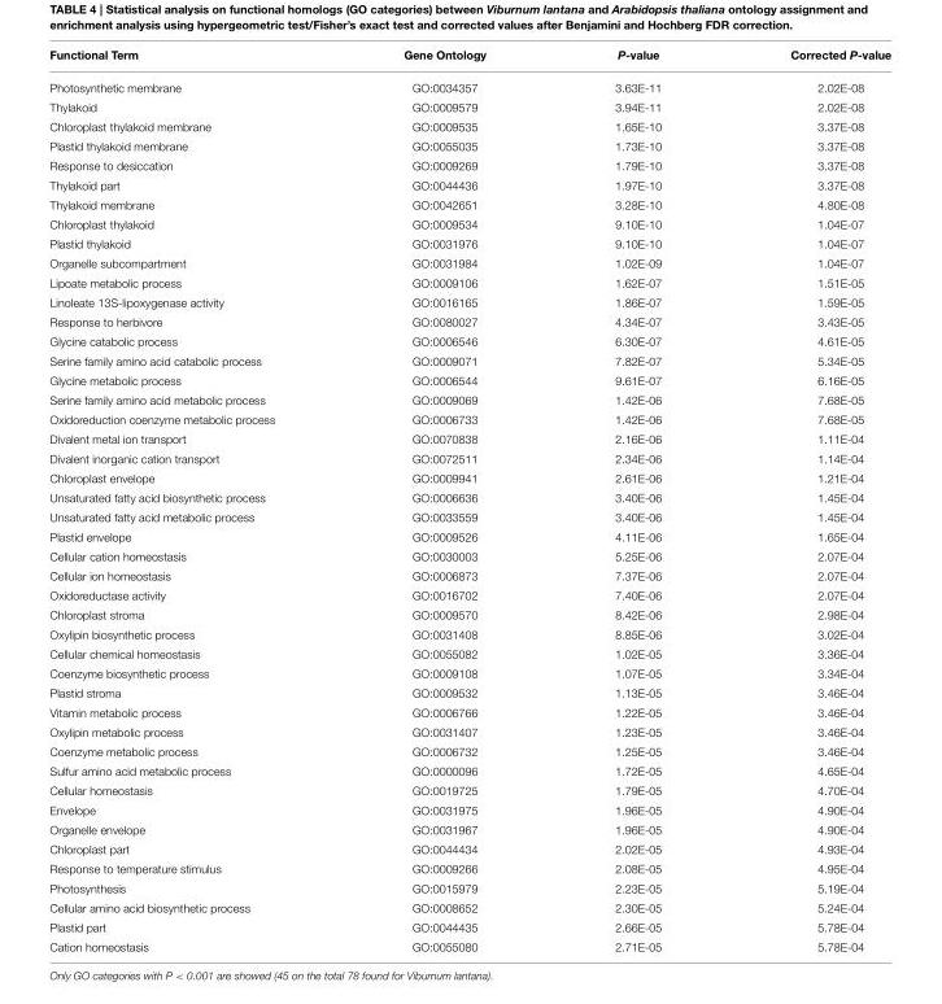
<table><thead><tr><td>Functional Term</td><td>Gene Ontology</td><td>P-value</td><td>Corrected P-value</td></tr></thead><tbody><tr><td>Photosynthetic membrane</td><td>GO:0034357</td><td>3.63E-11</td><td>2.02E-08</td></tr><tr><td>Thylakoid</td><td>GO:0009579</td><td>3.94E-11</td><td>2.02E-08</td></tr><tr><td>Chloroplast thylakoid membrane</td><td>GO:0009535</td><td>1.65E-10</td><td>3.37E-08</td></tr><tr><td>Plastid thylakoid membrane</td><td>GO:0055035</td><td>1.73E-10</td><td>3.37E-08</td></tr><tr><td>Response to desiccation</td><td>GO:0009269</td><td>1.79E-10</td><td>3.37E-08</td></tr><tr><td>Thylakoid part</td><td>GO:0044436</td><td>1.97E-10</td><td>3.37E-08</td></tr><tr><td>Thylakoid membrane</td><td>GO:0042651</td><td>3.28E-10</td><td>4.80E-08</td></tr><tr><td>Chloroplast thylakoid</td><td>GO:0009534</td><td>9.10E-10</td><td>1.04E-07</td></tr><tr><td>Plastid thylakoid</td><td>GO:0031976</td><td>9.10E-10</td><td>1.04E-07</td></tr><tr><td>Organelle subcompartment</td><td>GO:0031984</td><td>1.02E-09</td><td>1.04E-07</td></tr><tr><td>Lipoate metabolic process</td><td>GO:0009106</td><td>1.62E-07</td><td>1.51E-05</td></tr><tr><td>Linoleate 13S-lipoxygenase activity</td><td>GO:0016165</td><td>1.86E-07</td><td>1.59E-05</td></tr><tr><td>Response to herbivore</td><td>GO:0080027</td><td>4.34E-07</td><td>3.43E-05</td></tr><tr><td>Glycine catabolic process</td><td>GO:0006546</td><td>6.30E-07</td><td>4.61E-05</td></tr><tr><td>Serine family amino acid catabolic process</td><td>GO:0009071</td><td>7.82E-07</td><td>5.34E-05</td></tr><tr><td>Glycine metabolic process</td><td>GO:0006544</td><td>9.61E-07</td><td>6.16E-05</td></tr><tr><td>Serine family amino acid metabolic process</td><td>GO:0009069</td><td>1.42E-06</td><td>7.68E-05</td></tr><tr><td>Oxidoreduction coenzyme metabolic process</td><td>GO:0006733</td><td>1.42E-06</td><td>7.68E-05</td></tr><tr><td>Divalent metal ion transport</td><td>GO:0070838</td><td>2.16E-06</td><td>1.11E-04</td></tr><tr><td>Divalent inorganic cation transport</td><td>GO:0072511</td><td>2.34E-06</td><td>1.14E-04</td></tr><tr><td>Chloroplast envelope</td><td>GO:0009941</td><td>2.61E-06</td><td>1.21E-04</td></tr><tr><td>Unsaturated fatty acid biosynthetic process</td><td>GO:0006636</td><td>3.40E-06</td><td>1.45E-04</td></tr><tr><td>Unsaturated fatty acid metabolic process</td><td>GO:0033559</td><td>3.40E-06</td><td>1.45E-04</td></tr><tr><td>Plastid envelope</td><td>GO:0009526</td><td>4.11E-06</td><td>1.65E-04</td></tr><tr><td>Cellular cation homeostasis</td><td>GO:0030003</td><td>5.25E-06</td><td>2.07E-04</td></tr><tr><td>Cellular ion homeostasis</td><td>GO:0006873</td><td>7.37E-06</td><td>2.07E-04</td></tr><tr><td>Oxidoreductase activity</td><td>GO:0016702</td><td>7.40E-06</td><td>2.07E-04</td></tr><tr><td>Chloroplast stroma</td><td>GO:0009570</td><td>8.42E-06</td><td>2.98E-04</td></tr><tr><td>Oxylipin biosynthetic process</td><td>GO:0031408</td><td>8.85E-06</td><td>3.02E-04</td></tr><tr><td>Cellular chemical homeostasis</td><td>GO:0055082</td><td>1.02E-05</td><td>3.36E-04</td></tr><tr><td>Coenzyme biosynthetic process</td><td>GO:0009108</td><td>1.07E-05</td><td>3.34E-04</td></tr><tr><td>Plastid stroma</td><td>GO:0009532</td><td>1.13E-05</td><td>3.46E-04</td></tr><tr><td>Vitamin metabolic process</td><td>GO:0006766</td><td>1.22E-05</td><td>3.46E-04</td></tr><tr><td>Oxylipin metabolic process</td><td>GO:0031407</td><td>1.23E-05</td><td>3.46E-04</td></tr><tr><td>Coenzyme metabolic process</td><td>GO:0006732</td><td>1.25E-05</td><td>3.46E-04</td></tr><tr><td>Sulfur amino acid metabolic process</td><td>GO:0000096</td><td>1.72E-05</td><td>4.65E-04</td></tr><tr><td>Cellular homeostasis</td><td>GO:0019725</td><td>1.79E-05</td><td>4.70E-04</td></tr><tr><td>Envelope</td><td>GO:0031975</td><td>1.96E-05</td><td>4.90E-04</td></tr><tr><td>Organelle envelope</td><td>GO:0031967</td><td>1.96E-05</td><td>4.90E-04</td></tr><tr><td>Chloroplast part</td><td>GO:0044434</td><td>2.02E-05</td><td>4.93E-04</td></tr><tr><td>Response to temperature stimulus</td><td>GO:0009266</td><td>2.08E-05</td><td>4.95E-04</td></tr><tr><td>Photosynthesis</td><td>GO:0015979</td><td>2.23E-05</td><td>5.19E-04</td></tr><tr><td>Cellular amino acid biosynthetic process</td><td>GO:0008652</td><td>2.30E-05</td><td>5.24E-04</td></tr><tr><td>Plastid part</td><td>GO:0044435</td><td>2.66E-05</td><td>5.78E-04</td></tr><tr><td>Cation homeostasis</td><td>GO:0055080</td><td>2.71E-05</td><td>5.78E-04</td></tr></tbody></table>